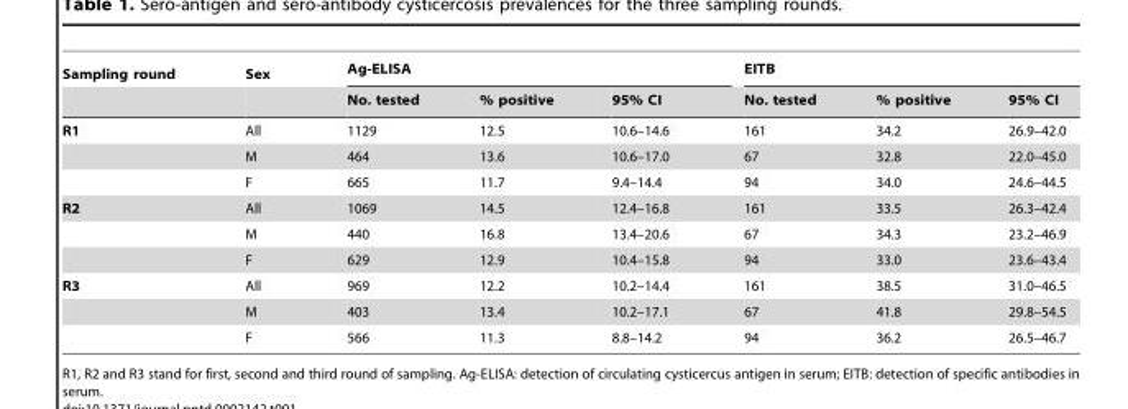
<table><thead><tr><td rowspan="2">Sampling round</td><td rowspan="2">Sex</td><td colspan="3">Ag-ELISA</td><td colspan="3">EITB</td></tr><tr><td>No. tested</td><td>% positive</td><td>95% CI</td><td>No. tested</td><td>% positive</td><td>95% CI</td></tr></thead><tbody><tr><td rowspan="3">R1</td><td>All</td><td>1129</td><td>12.5</td><td>10.6–14.6</td><td>161</td><td>34.2</td><td>26.9–42.0</td></tr><tr><td>M</td><td>464</td><td>13.6</td><td>10.6–17.0</td><td>67</td><td>32.8</td><td>22.0–45.0</td></tr><tr><td>F</td><td>665</td><td>11.7</td><td>9.4–14.4</td><td>94</td><td>34.0</td><td>24.6–44.5</td></tr><tr><td rowspan="3">R2</td><td>All</td><td>1069</td><td>14.5</td><td>12.4–16.8</td><td>161</td><td>33.5</td><td>26.3–42.4</td></tr><tr><td>M</td><td>440</td><td>16.8</td><td>13.4–20.6</td><td>67</td><td>34.3</td><td>23.2–46.9</td></tr><tr><td>F</td><td>629</td><td>12.9</td><td>10.4–15.8</td><td>94</td><td>33.0</td><td>23.6–43.4</td></tr><tr><td rowspan="3">R3</td><td>All</td><td>969</td><td>12.2</td><td>10.2–14.4</td><td>161</td><td>38.5</td><td>31.0–46.5</td></tr><tr><td>M</td><td>403</td><td>13.4</td><td>10.2–17.1</td><td>67</td><td>41.8</td><td>29.8–54.5</td></tr><tr><td>F</td><td>566</td><td>11.3</td><td>8.8–14.2</td><td>94</td><td>36.2</td><td>26.5–46.7</td></tr></tbody></table>